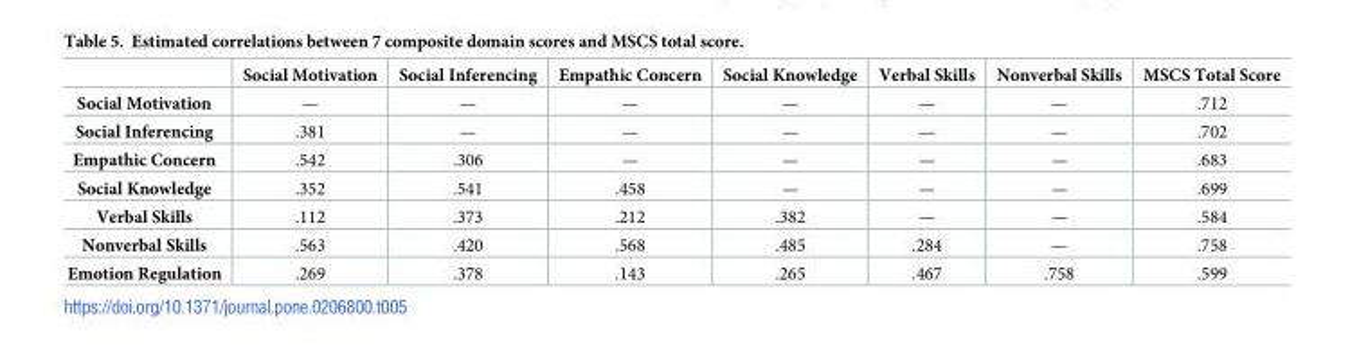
<table><thead><tr><td></td><td>Social Motivation</td><td>Social Inferencing</td><td>Empathic Concern</td><td>Social Knowledge</td><td>Verbal Skills</td><td>Nonverbal Skills</td><td>MSCS Total Score</td></tr></thead><tbody><tr><td>Social Motivation</td><td>—</td><td>—</td><td>—</td><td>—</td><td>—</td><td>—</td><td>.712</td></tr><tr><td>Social Inferencing</td><td>.381</td><td>—</td><td>—</td><td>—</td><td>—</td><td>—</td><td>.702</td></tr><tr><td>Empathic Concern</td><td>.542</td><td>.306</td><td>—</td><td>—</td><td>—</td><td>—</td><td>.683</td></tr><tr><td>Social Knowledge</td><td>.352</td><td>.541</td><td>.458</td><td>—</td><td>—</td><td>—</td><td>.699</td></tr><tr><td>Verbal Skills</td><td>.112</td><td>.373</td><td>.212</td><td>.382</td><td>—</td><td>—</td><td>.584</td></tr><tr><td>Nonverbal Skills</td><td>.563</td><td>.420</td><td>.568</td><td>.485</td><td>.284</td><td>—</td><td>.758</td></tr><tr><td>Emotion Regulation</td><td>.269</td><td>.378</td><td>.143</td><td>.265</td><td>.467</td><td>.758</td><td>.599</td></tr></tbody></table>